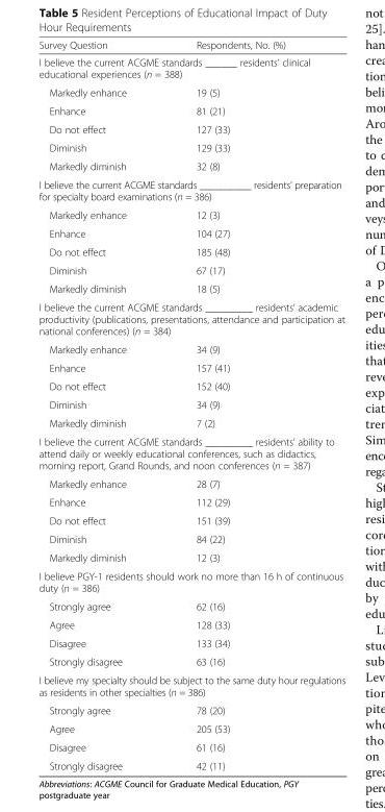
<table><thead><tr><td>Survey Question</td><td>Respondents, No. (%)</td></tr></thead><tbody><tr><td colspan="2">I believe the current ACGME standards ______ residents’ clinical educational experiences (n = 388)</td></tr><tr><td>Markedly enhance</td><td>19 (5)</td></tr><tr><td>Enhance</td><td>81 (21)</td></tr><tr><td>Do not effect</td><td>127 (33)</td></tr><tr><td>Diminish</td><td>129 (33)</td></tr><tr><td>Markedly diminish</td><td>32 (8)</td></tr><tr><td colspan="2">I believe the current ACGME standards __________ residents’ preparation for specialty board examinations (n = 386)</td></tr><tr><td>Markedly enhance</td><td>12 (3)</td></tr><tr><td>Enhance</td><td>104 (27)</td></tr><tr><td>Do not effect</td><td>185 (48)</td></tr><tr><td>Diminish</td><td>67 (17)</td></tr><tr><td>Markedly diminish</td><td>18 (5)</td></tr><tr><td colspan="2">I believe the current ACGME standards _________ residents’ academic productivity (publications, presentations, attendance and participation at national conferences) (n = 384)</td></tr><tr><td>Markedly enhance</td><td>34 (9)</td></tr><tr><td>Enhance</td><td>157 (41)</td></tr><tr><td>Do not effect</td><td>152 (40)</td></tr><tr><td>Diminish</td><td>34 (9)</td></tr><tr><td>Markedly diminish</td><td>7 (2)</td></tr><tr><td colspan="2">I believe the current ACGME standards _________ residents’ ability to attend daily or weekly educational conferences, such as didactics, morning report, Grand Rounds, and noon conferences (n = 387)</td></tr><tr><td>Markedly enhance</td><td>28 (7)</td></tr><tr><td>Enhance</td><td>112 (29)</td></tr><tr><td>Do not effect</td><td>151 (39)</td></tr><tr><td>Diminish</td><td>84 (22)</td></tr><tr><td>Markedly diminish</td><td>12 (3)</td></tr><tr><td colspan="2">I believe PGY-1 residents should work no more than 16 h of continuous duty (n = 386)</td></tr><tr><td>Strongly agree</td><td>62 (16)</td></tr><tr><td>Agree</td><td>128 (33)</td></tr><tr><td>Disagree</td><td>133 (34)</td></tr><tr><td>Strongly disagree</td><td>63 (16)</td></tr><tr><td colspan="2">I believe my specialty should be subject to the same duty hour regulations as residents in other specialties (n = 386)</td></tr><tr><td>Strongly agree</td><td>78 (20)</td></tr><tr><td>Agree</td><td>205 (53)</td></tr><tr><td>Disagree</td><td>61 (16)</td></tr><tr><td>Strongly disagree</td><td>42 (11)</td></tr></tbody></table>